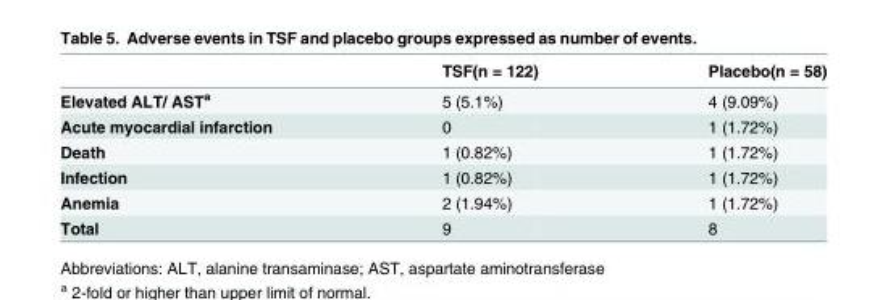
<table><thead><tr><td></td><td>TSF(n = 122)</td><td>Placebo(n = 58)</td></tr></thead><tbody><tr><td>Elevated ALT/ AST<sup>a</sup></td><td>5 (5.1%)</td><td>4 (9.09%)</td></tr><tr><td>Acute myocardial infarction</td><td>0</td><td>1 (1.72%)</td></tr><tr><td>Death</td><td>1 (0.82%)</td><td>1 (1.72%)</td></tr><tr><td>Infection</td><td>1 (0.82%)</td><td>1 (1.72%)</td></tr><tr><td>Anemia</td><td>2 (1.94%)</td><td>1 (1.72%)</td></tr><tr><td>Total</td><td>9</td><td>8</td></tr></tbody></table>